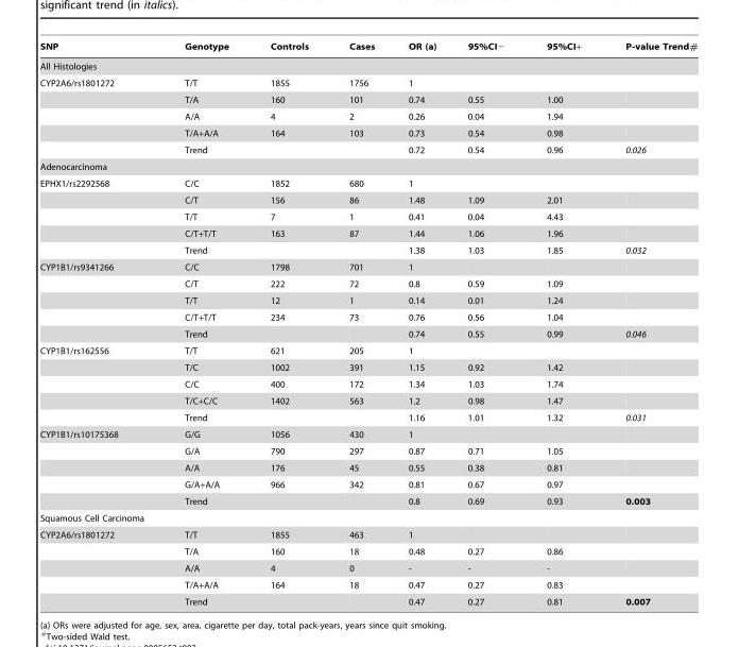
<table><thead><tr><td>SNP</td><td>Genotype</td><td>Controls</td><td>Cases</td><td>OR (a)</td><td>95%CI−</td><td>95%CI+</td><td>P-value Trend#</td></tr></thead><tbody><tr><td colspan="8">All Histologies</td></tr><tr><td rowspan="5">CYP2A6/rs1801272</td><td>T/T</td><td>1855</td><td>1756</td><td>1</td><td></td><td></td><td></td></tr><tr><td>T/A</td><td>160</td><td>101</td><td>0.74</td><td>0.55</td><td>1.00</td><td></td></tr><tr><td>A/A</td><td>4</td><td>2</td><td>0.26</td><td>0.04</td><td>1.94</td><td></td></tr><tr><td>T/A+A/A</td><td>164</td><td>103</td><td>0.73</td><td>0.54</td><td>0.98</td><td></td></tr><tr><td>Trend</td><td></td><td></td><td>0.72</td><td>0.54</td><td>0.96</td><td>0.026</td></tr><tr><td colspan="8">Adenocarcinoma</td></tr><tr><td rowspan="5">EPHX1/rs2292568</td><td>C/C</td><td>1852</td><td>680</td><td>1</td><td></td><td></td><td></td></tr><tr><td>C/T</td><td>156</td><td>86</td><td>1.48</td><td>1.09</td><td>2.01</td><td></td></tr><tr><td>T/T</td><td>7</td><td>1</td><td>0.41</td><td>0.04</td><td>4.43</td><td></td></tr><tr><td>C/T+T/T</td><td>163</td><td>87</td><td>1.44</td><td>1.06</td><td>1.96</td><td></td></tr><tr><td>Trend</td><td></td><td></td><td>1.38</td><td>1.03</td><td>1.85</td><td>0.032</td></tr><tr><td rowspan="5">CYP1B1/rs9341266</td><td>C/C</td><td>1798</td><td>701</td><td>1</td><td></td><td></td><td></td></tr><tr><td>C/T</td><td>222</td><td>72</td><td>0.8</td><td>0.59</td><td>1.09</td><td></td></tr><tr><td>T/T</td><td>12</td><td>1</td><td>0.14</td><td>0.01</td><td>1.24</td><td></td></tr><tr><td>C/T+T/T</td><td>234</td><td>73</td><td>0.76</td><td>0.56</td><td>1.04</td><td></td></tr><tr><td>Trend</td><td></td><td></td><td>0.74</td><td>0.55</td><td>0.99</td><td>0.046</td></tr><tr><td rowspan="5">CYP1B1/rs162556</td><td>T/T</td><td>621</td><td>205</td><td>1</td><td></td><td></td><td></td></tr><tr><td>T/C</td><td>1002</td><td>391</td><td>1.15</td><td>0.92</td><td>1.42</td><td></td></tr><tr><td>C/C</td><td>400</td><td>172</td><td>1.34</td><td>1.03</td><td>1.74</td><td></td></tr><tr><td>T/C+C/C</td><td>1402</td><td>563</td><td>1.2</td><td>0.98</td><td>1.47</td><td></td></tr><tr><td>Trend</td><td></td><td></td><td>1.16</td><td>1.01</td><td>1.32</td><td>0.031</td></tr><tr><td rowspan="5">CYP1B1/rs10175368</td><td>G/G</td><td>1056</td><td>430</td><td>1</td><td></td><td></td><td></td></tr><tr><td>G/A</td><td>790</td><td>297</td><td>0.87</td><td>0.71</td><td>1.05</td><td></td></tr><tr><td>A/A</td><td>176</td><td>45</td><td>0.55</td><td>0.38</td><td>0.81</td><td></td></tr><tr><td>G/A+A/A</td><td>966</td><td>342</td><td>0.81</td><td>0.67</td><td>0.97</td><td></td></tr><tr><td>Trend</td><td></td><td></td><td>0.8</td><td>0.69</td><td>0.93</td><td>0.003</td></tr><tr><td colspan="8">Squamous Cell Carcinoma</td></tr><tr><td rowspan="5">CYP2A6/rs1801272</td><td>T/T</td><td>1855</td><td>463</td><td>1</td><td></td><td></td><td></td></tr><tr><td>T/A</td><td>160</td><td>18</td><td>0.48</td><td>0.27</td><td>0.86</td><td></td></tr><tr><td>A/A</td><td>4</td><td>0</td><td>-</td><td>-</td><td>-</td><td></td></tr><tr><td>T/A+A/A</td><td>164</td><td>18</td><td>0.47</td><td>0.27</td><td>0.83</td><td></td></tr><tr><td>Trend</td><td></td><td></td><td>0.47</td><td>0.27</td><td>0.81</td><td>0.007</td></tr></tbody></table>